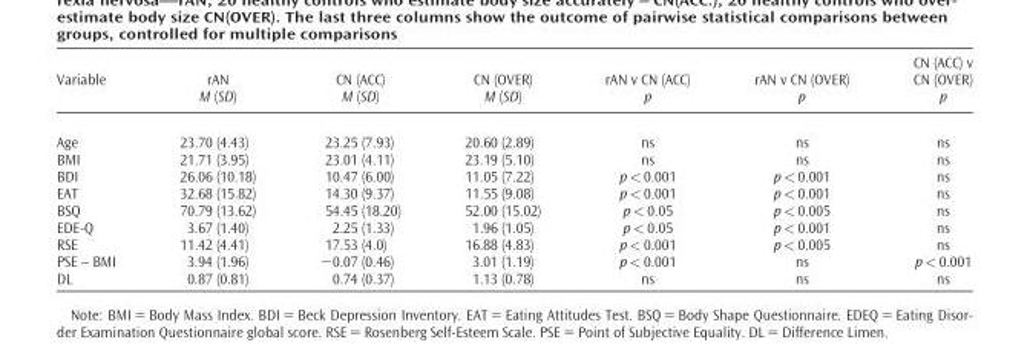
<table><thead><tr><td rowspan="2">Variable</td><td rowspan="2">rAN M (SD)</td><td rowspan="2">CN (ACC) M (SD)</td><td rowspan="2">CN (OVER) M (SD)</td><td rowspan="2">rAN v CN (ACC) p</td><td rowspan="2">rAN v CN (OVER) p</td><td rowspan="2">CN (ACC) v CN (OVER) p</td></tr><tr></tr></thead><tbody><tr><td>Age</td><td>23.70 (4.43)</td><td>23.25 (7.93)</td><td>20.60 (2.89)</td><td>ns</td><td>ns</td><td>ns</td></tr><tr><td>BMI</td><td>21.71 (3.95)</td><td>23.01 (4.11)</td><td>23.19 (5.10)</td><td>ns</td><td>ns</td><td>ns</td></tr><tr><td>BDI</td><td>26.06 (10.18)</td><td>10.47 (6.00)</td><td>11.05 (7.22)</td><td>p &lt; 0.001</td><td>p &lt; 0.001</td><td>ns</td></tr><tr><td>EAT</td><td>32.68 (15.82)</td><td>14.30 (9.37)</td><td>11.55 (9.08)</td><td>p &lt; 0.001</td><td>p &lt; 0.001</td><td>ns</td></tr><tr><td>BSQ</td><td>70.79 (13.62)</td><td>54.45 (18.20)</td><td>52.00 (15.02)</td><td>p &lt; 0.05</td><td>p &lt; 0.005</td><td>ns</td></tr><tr><td>EDE-Q</td><td>3.67 (1.40)</td><td>2.25 (1.33)</td><td>1.96 (1.05)</td><td>p &lt; 0.05</td><td>p &lt; 0.001</td><td>ns</td></tr><tr><td>RSE</td><td>11.42 (4.41)</td><td>17.53 (4.0)</td><td>16.88 (4.83)</td><td>p &lt; 0.001</td><td>p &lt; 0.005</td><td>ns</td></tr><tr><td>PSE – BMI</td><td>3.94 (1.96)</td><td>−0.07 (0.46)</td><td>3.01 (1.19)</td><td>p &lt; 0.001</td><td>ns</td><td>p &lt; 0.001</td></tr><tr><td>DL</td><td>0.87 (0.81)</td><td>0.74 (0.37)</td><td>1.13 (0.78)</td><td>ns</td><td>ns</td><td>ns</td></tr></tbody></table>